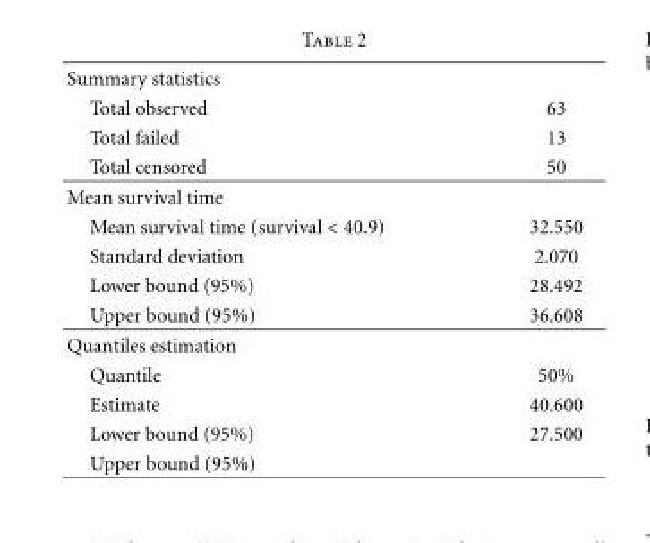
<table><tbody><tr><td colspan="2">Summary statistics</td></tr><tr><td>Total observed</td><td>63</td></tr><tr><td>Total failed</td><td>13</td></tr><tr><td>Total censored</td><td>50</td></tr><tr><td colspan="2">Mean survival time</td></tr><tr><td>Mean survival time (survival &lt; 40.9)</td><td>32.550</td></tr><tr><td>Standard deviation</td><td>2.070</td></tr><tr><td>Lower bound (95%)</td><td>28.492</td></tr><tr><td>Upper bound (95%)</td><td>36.608</td></tr><tr><td colspan="2">Quantiles estimation</td></tr><tr><td>Quantile</td><td>50%</td></tr><tr><td>Estimate</td><td>40.600</td></tr><tr><td>Lower bound (95%)</td><td>27.500</td></tr><tr><td>Upper bound (95%)</td><td></td></tr></tbody></table>